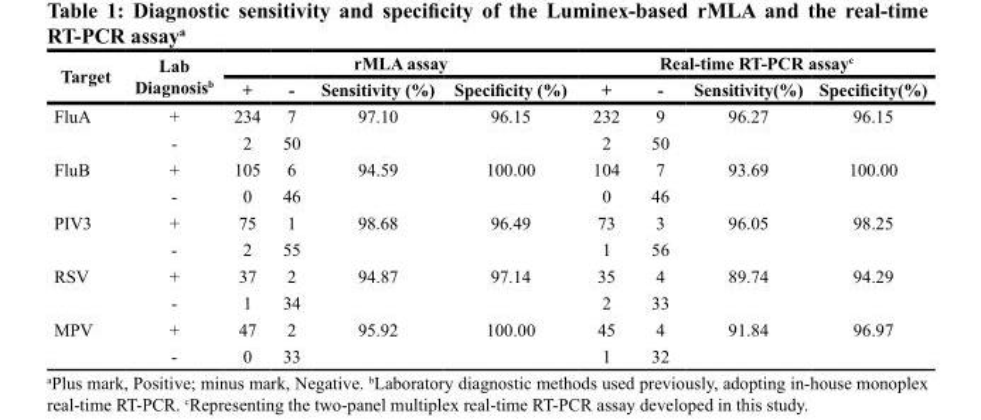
<table><thead><tr><td rowspan="2">Target</td><td rowspan="2">Lab Diagnosis<sup>b</sup></td><td colspan="4">rMLA assay</td><td colspan="4">Real-time RT-PCR assay<sup>c</sup></td></tr><tr><td>+</td><td>-</td><td>Sensitivity (%)</td><td>Specificity (%)</td><td>+</td><td>-</td><td>Sensitivity(%)</td><td>Specificity(%)</td></tr></thead><tbody><tr><td rowspan="2">FluA</td><td>+</td><td>234</td><td>7</td><td>97.10</td><td>96.15</td><td>232</td><td>9</td><td>96.27</td><td>96.15</td></tr><tr><td>-</td><td>2</td><td>50</td><td></td><td></td><td>2</td><td>50</td><td></td><td></td></tr><tr><td rowspan="2">FluB</td><td>+</td><td>105</td><td>6</td><td>94.59</td><td>100.00</td><td>104</td><td>7</td><td>93.69</td><td>100.00</td></tr><tr><td>-</td><td>0</td><td>46</td><td></td><td></td><td>0</td><td>46</td><td></td><td></td></tr><tr><td rowspan="2">PIV3</td><td>+</td><td>75</td><td>1</td><td>98.68</td><td>96.49</td><td>73</td><td>3</td><td>96.05</td><td>98.25</td></tr><tr><td>-</td><td>2</td><td>55</td><td></td><td></td><td>1</td><td>56</td><td></td><td></td></tr><tr><td rowspan="2">RSV</td><td>+</td><td>37</td><td>2</td><td>94.87</td><td>97.14</td><td>35</td><td>4</td><td>89.74</td><td>94.29</td></tr><tr><td>-</td><td>1</td><td>34</td><td></td><td></td><td>2</td><td>33</td><td></td><td></td></tr><tr><td rowspan="2">MPV</td><td>+</td><td>47</td><td>2</td><td>95.92</td><td>100.00</td><td>45</td><td>4</td><td>91.84</td><td>96.97</td></tr><tr><td>-</td><td>0</td><td>33</td><td></td><td></td><td>1</td><td>32</td><td></td><td></td></tr></tbody></table>